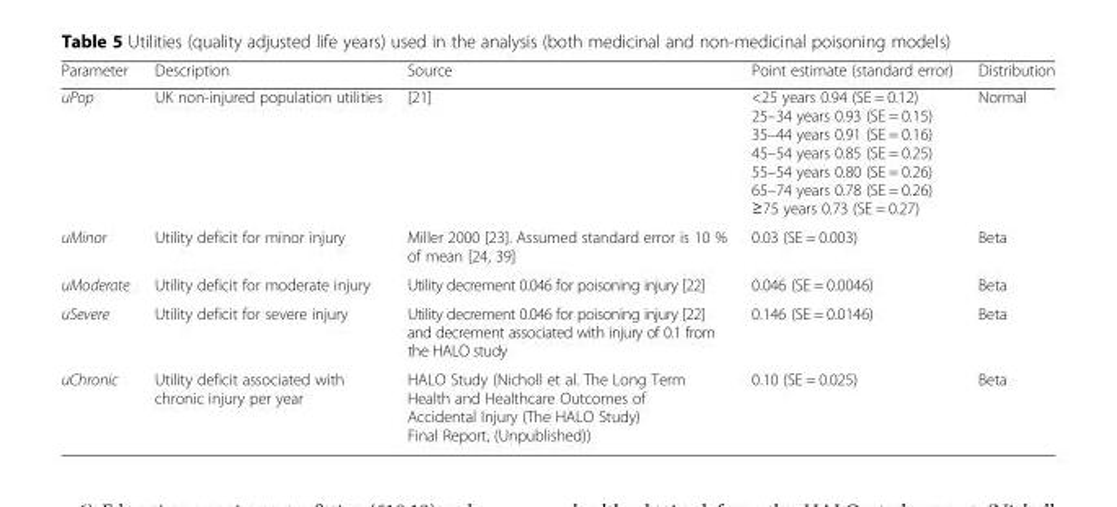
<table><thead><tr><td>Parameter</td><td>Description</td><td>Source</td><td>Point estimate (standard error)</td><td>Distribution</td></tr></thead><tbody><tr><td>uPop</td><td>UK non-injured population utilities</td><td>[21]</td><td>&lt;25 years 0.94 (SE = 0.12) 25–34 years 0.93 (SE = 0.15) 35–44 years 0.91 (SE = 0.16) 45–54 years 0.85 (SE = 0.25) 55–54 years 0.80 (SE = 0.26) 65–74 years 0.78 (SE = 0.26) ≥75 years 0.73 (SE = 0.27)</td><td>Normal</td></tr><tr><td>uMinor</td><td>Utility deficit for minor injury</td><td>Miller 2000 [23]. Assumed standard error is 10 % of mean [24, 39]</td><td>0.03 (SE = 0.003)</td><td>Beta</td></tr><tr><td>uModerate</td><td>Utility deficit for moderate injury</td><td>Utility decrement 0.046 for poisoning injury [22]</td><td>0.046 (SE = 0.0046)</td><td>Beta</td></tr><tr><td>uSevere</td><td>Utility deficit for severe injury</td><td>Utility decrement 0.046 for poisoning injury [22] and decrement associated with injury of 0.1 from the HALO study</td><td>0.146 (SE = 0.0146)</td><td>Beta</td></tr><tr><td>uChronic</td><td>Utility deficit associated with chronic injury per year</td><td>HALO Study (Nicholl et al. The Long Term Health and Healthcare Outcomes of Accidental Injury (The HALO Study) Final Report, (Unpublished))</td><td>0.10 (SE = 0.025)</td><td>Beta</td></tr></tbody></table>